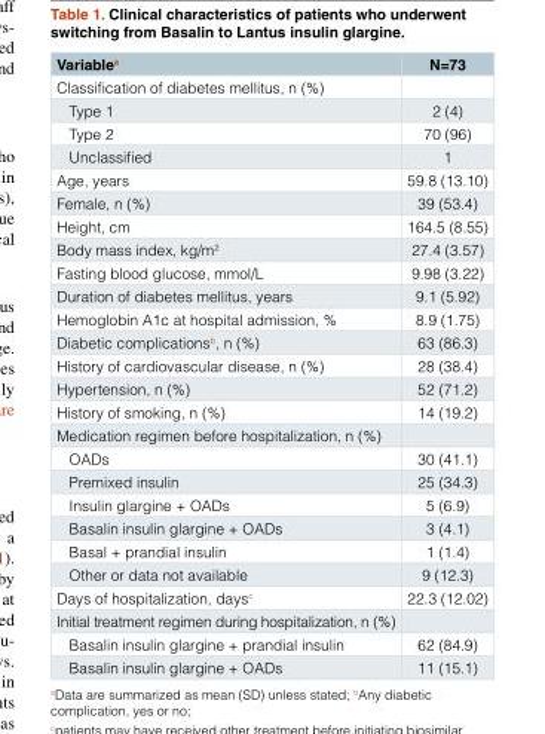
<table><thead><tr><td>Variable<sup>a</sup></td><td>N=73</td></tr></thead><tbody><tr><td colspan="2">Classification of diabetes mellitus, n (%)</td></tr><tr><td>Type 1</td><td>2 (4)</td></tr><tr><td>Type 2</td><td>70 (96)</td></tr><tr><td>Unclassified</td><td>1</td></tr><tr><td>Age, years</td><td>59.8 (13.10)</td></tr><tr><td>Female, n (%)</td><td>39 (53.4)</td></tr><tr><td>Height, cm</td><td>164.5 (8.55)</td></tr><tr><td>Body mass index, kg/m<sup>2</sup></td><td>27.4 (3.57)</td></tr><tr><td>Fasting blood glucose, mmol/L</td><td>9.98 (3.22)</td></tr><tr><td>Duration of diabetes mellitus, years</td><td>9.1 (5.92)</td></tr><tr><td>Hemoglobin A1c at hospital admission, %</td><td>8.9 (1.75)</td></tr><tr><td>Diabetic complications<sup>b</sup>, n (%)</td><td>63 (86.3)</td></tr><tr><td>History of cardiovascular disease, n (%)</td><td>28 (38.4)</td></tr><tr><td>Hypertension, n (%)</td><td>52 (71.2)</td></tr><tr><td>History of smoking, n (%)</td><td>14 (19.2)</td></tr><tr><td colspan="2">Medication regimen before hospitalization, n (%)</td></tr><tr><td>OADs</td><td>30 (41.1)</td></tr><tr><td>Premixed insulin</td><td>25 (34.3)</td></tr><tr><td>Insulin glargine + OADs</td><td>5 (6.9)</td></tr><tr><td>Basalin insulin glargine + OADs</td><td>3 (4.1)</td></tr><tr><td>Basal + prandial insulin</td><td>1 (1.4)</td></tr><tr><td>Other or data not available</td><td>9 (12.3)</td></tr><tr><td>Days of hospitalization, days<sup>c</sup></td><td>22.3 (12.02)</td></tr><tr><td colspan="2">Initial treatment regimen during hospitalization, n (%)</td></tr><tr><td>Basalin insulin glargine + prandial insulin</td><td>62 (84.9)</td></tr><tr><td>Basalin insulin glargine + OADs</td><td>11 (15.1)</td></tr></tbody></table>